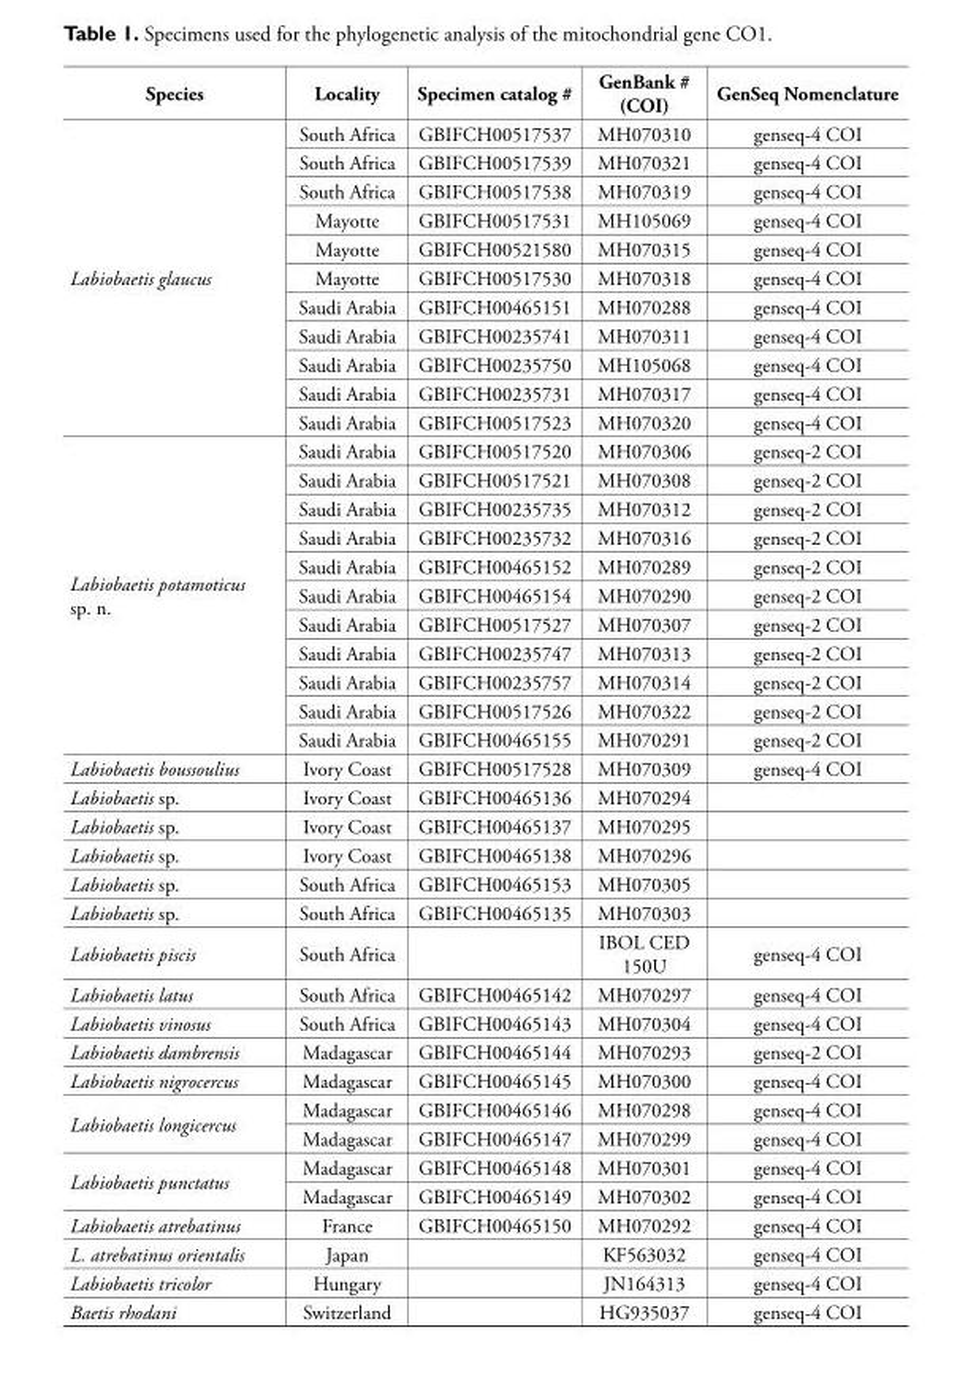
<table><thead><tr><td>Species</td><td>Locality</td><td>Specimen catalog #</td><td>GenBank # (COI)</td><td>GenSeq Nomenclature</td></tr></thead><tbody><tr><td rowspan="11">Labiobaetis glaucus</td><td>South Africa</td><td>GBIFCH00517537</td><td>MH070310</td><td>genseq-4 COI</td></tr><tr><td>South Africa</td><td>GBIFCH00517539</td><td>MH070321</td><td>genseq-4 COI</td></tr><tr><td>South Africa</td><td>GBIFCH00517538</td><td>MH070319</td><td>genseq-4 COI</td></tr><tr><td>Mayotte</td><td>GBIFCH00517531</td><td>MH105069</td><td>genseq-4 COI</td></tr><tr><td>Mayotte</td><td>GBIFCH00521580</td><td>MH070315</td><td>genseq-4 COI</td></tr><tr><td>Mayotte</td><td>GBIFCH00517530</td><td>MH070318</td><td>genseq-4 COI</td></tr><tr><td>Saudi Arabia</td><td>GBIFCH00465151</td><td>MH070288</td><td>genseq-4 COI</td></tr><tr><td>Saudi Arabia</td><td>GBIFCH00235741</td><td>MH070311</td><td>genseq-4 COI</td></tr><tr><td>Saudi Arabia</td><td>GBIFCH00235750</td><td>MH105068</td><td>genseq-4 COI</td></tr><tr><td>Saudi Arabia</td><td>GBIFCH00235731</td><td>MH070317</td><td>genseq-4 COI</td></tr><tr><td>Saudi Arabia</td><td>GBIFCH00517523</td><td>MH070320</td><td>genseq-4 COI</td></tr><tr><td rowspan="11">Labiobaetis potamoticus sp. n.</td><td>Saudi Arabia</td><td>GBIFCH00517520</td><td>MH070306</td><td>genseq-2 COI</td></tr><tr><td>Saudi Arabia</td><td>GBIFCH00517521</td><td>MH070308</td><td>genseq-2 COI</td></tr><tr><td>Saudi Arabia</td><td>GBIFCH00235735</td><td>MH070312</td><td>genseq-2 COI</td></tr><tr><td>Saudi Arabia</td><td>GBIFCH00235732</td><td>MH070316</td><td>genseq-2 COI</td></tr><tr><td>Saudi Arabia</td><td>GBIFCH00465152</td><td>MH070289</td><td>genseq-2 COI</td></tr><tr><td>Saudi Arabia</td><td>GBIFCH00465154</td><td>MH070290</td><td>genseq-2 COI</td></tr><tr><td>Saudi Arabia</td><td>GBIFCH00517527</td><td>MH070307</td><td>genseq-2 COI</td></tr><tr><td>Saudi Arabia</td><td>GBIFCH00235747</td><td>MH070313</td><td>genseq-2 COI</td></tr><tr><td>Saudi Arabia</td><td>GBIFCH00235757</td><td>MH070314</td><td>genseq-2 COI</td></tr><tr><td>Saudi Arabia</td><td>GBIFCH00517526</td><td>MH070322</td><td>genseq-2 COI</td></tr><tr><td>Saudi Arabia</td><td>GBIFCH00465155</td><td>MH070291</td><td>genseq-2 COI</td></tr><tr><td>Labiobaetis boussoulius</td><td>Ivory Coast</td><td>GBIFCH00517528</td><td>MH070309</td><td>genseq-4 COI</td></tr><tr><td>Labiobaetis sp.</td><td>Ivory Coast</td><td>GBIFCH00465136</td><td>MH070294</td><td></td></tr><tr><td>Labiobaetis sp.</td><td>Ivory Coast</td><td>GBIFCH00465137</td><td>MH070295</td><td></td></tr><tr><td>Labiobaetis sp.</td><td>Ivory Coast</td><td>GBIFCH00465138</td><td>MH070296</td><td></td></tr><tr><td>Labiobaetis sp.</td><td>South Africa</td><td>GBIFCH00465153</td><td>MH070305</td><td></td></tr><tr><td>Labiobaetis sp.</td><td>South Africa</td><td>GBIFCH00465135</td><td>MH070303</td><td></td></tr><tr><td>Labiobaetis piscis</td><td>South Africa</td><td></td><td>IBOL CED 150U</td><td>genseq-4 COI</td></tr><tr><td>Labiobaetis latus</td><td>South Africa</td><td>GBIFCH00465142</td><td>MH070297</td><td>genseq-4 COI</td></tr><tr><td>Labiobaetis vinosus</td><td>South Africa</td><td>GBIFCH00465143</td><td>MH070304</td><td>genseq-4 COI</td></tr><tr><td>Labiobaetis dambrensis</td><td>Madagascar</td><td>GBIFCH00465144</td><td>MH070293</td><td>genseq-2 COI</td></tr><tr><td>Labiobaetis nigrocercus</td><td>Madagascar</td><td>GBIFCH00465145</td><td>MH070300</td><td>genseq-4 COI</td></tr><tr><td rowspan="2">Labiobaetis longicercus</td><td>Madagascar</td><td>GBIFCH00465146</td><td>MH070298</td><td>genseq-4 COI</td></tr><tr><td>Madagascar</td><td>GBIFCH00465147</td><td>MH070299</td><td>genseq-4 COI</td></tr><tr><td rowspan="2">Labiobaetis punctatus</td><td>Madagascar</td><td>GBIFCH00465148</td><td>MH070301</td><td>genseq-4 COI</td></tr><tr><td>Madagascar</td><td>GBIFCH00465149</td><td>MH070302</td><td>genseq-4 COI</td></tr><tr><td>Labiobaetis atrebatinus</td><td>France</td><td>GBIFCH00465150</td><td>MH070292</td><td>genseq-4 COI</td></tr><tr><td>L. atrebatinus orientalis</td><td>Japan</td><td></td><td>KF563032</td><td>genseq-4 COI</td></tr><tr><td>Labiobaetis tricolor</td><td>Hungary</td><td></td><td>JN164313</td><td>genseq-4 COI</td></tr><tr><td>Baetis rhodani</td><td>Switzerland</td><td></td><td>HG935037</td><td>genseq-4 COI</td></tr></tbody></table>